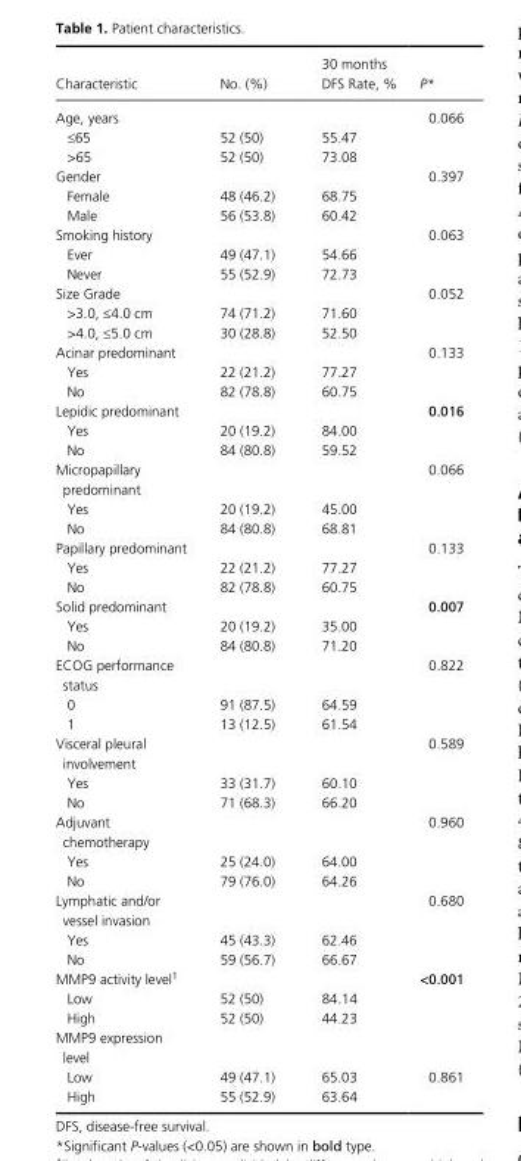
<table><thead><tr><td>Characteristic</td><td>No. (%)</td><td>30 months DFS Rate, %</td><td>P*</td></tr></thead><tbody><tr><td>Age, years</td><td></td><td></td><td>0.066</td></tr><tr><td>≤65</td><td>52 (50)</td><td>55.47</td><td></td></tr><tr><td>&gt;65</td><td>52 (50)</td><td>73.08</td><td></td></tr><tr><td>Gender</td><td></td><td></td><td>0.397</td></tr><tr><td>Female</td><td>48 (46.2)</td><td>68.75</td><td></td></tr><tr><td>Male</td><td>56 (53.8)</td><td>60.42</td><td></td></tr><tr><td>Smoking history</td><td></td><td></td><td>0.063</td></tr><tr><td>Ever</td><td>49 (47.1)</td><td>54.66</td><td></td></tr><tr><td>Never</td><td>55 (52.9)</td><td>72.73</td><td></td></tr><tr><td>Size Grade</td><td></td><td></td><td>0.052</td></tr><tr><td>&gt;3.0, ≤4.0 cm</td><td>74 (71.2)</td><td>71.60</td><td></td></tr><tr><td>&gt;4.0, ≤5.0 cm</td><td>30 (28.8)</td><td>52.50</td><td></td></tr><tr><td>Acinar predominant</td><td></td><td></td><td>0.133</td></tr><tr><td>Yes</td><td>22 (21.2)</td><td>77.27</td><td></td></tr><tr><td>No</td><td>82 (78.8)</td><td>60.75</td><td></td></tr><tr><td>Lepidic predominant</td><td></td><td></td><td>0.016</td></tr><tr><td>Yes</td><td>20 (19.2)</td><td>84.00</td><td></td></tr><tr><td>No</td><td>84 (80.8)</td><td>59.52</td><td></td></tr><tr><td>Micropapillary predominant</td><td></td><td></td><td>0.066</td></tr><tr><td>Yes</td><td>20 (19.2)</td><td>45.00</td><td></td></tr><tr><td>No</td><td>84 (80.8)</td><td>68.81</td><td></td></tr><tr><td>Papillary predominant</td><td></td><td></td><td>0.133</td></tr><tr><td>Yes</td><td>22 (21.2)</td><td>77.27</td><td></td></tr><tr><td>No</td><td>82 (78.8)</td><td>60.75</td><td></td></tr><tr><td>Solid predominant</td><td></td><td></td><td>0.007</td></tr><tr><td>Yes</td><td>20 (19.2)</td><td>35.00</td><td></td></tr><tr><td>No</td><td>84 (80.8)</td><td>71.20</td><td></td></tr><tr><td>ECOG performance status</td><td></td><td></td><td>0.822</td></tr><tr><td>0</td><td>91 (87.5)</td><td>64.59</td><td></td></tr><tr><td>1</td><td>13 (12.5)</td><td>61.54</td><td></td></tr><tr><td>Visceral pleural involvement</td><td></td><td></td><td>0.589</td></tr><tr><td>Yes</td><td>33 (31.7)</td><td>60.10</td><td></td></tr><tr><td>No</td><td>71 (68.3)</td><td>66.20</td><td></td></tr><tr><td>Adjuvant chemotherapy</td><td></td><td></td><td>0.960</td></tr><tr><td>Yes</td><td>25 (24.0)</td><td>64.00</td><td></td></tr><tr><td>No</td><td>79 (76.0)</td><td>64.26</td><td></td></tr><tr><td>Lymphatic and/or vessel invasion</td><td></td><td></td><td>0.680</td></tr><tr><td>Yes</td><td>45 (43.3)</td><td>62.46</td><td></td></tr><tr><td>No</td><td>59 (56.7)</td><td>66.67</td><td></td></tr><tr><td>MMP9 activity level1</td><td></td><td></td><td>&lt;0.001</td></tr><tr><td>Low</td><td>52 (50)</td><td>84.14</td><td></td></tr><tr><td>High</td><td>52 (50)</td><td>44.23</td><td></td></tr><tr><td colspan="4">MMP9 expression level</td></tr><tr><td>Low</td><td>49 (47.1)</td><td>65.03</td><td>0.861</td></tr><tr><td>High</td><td>55 (52.9)</td><td>63.64</td><td></td></tr></tbody></table>